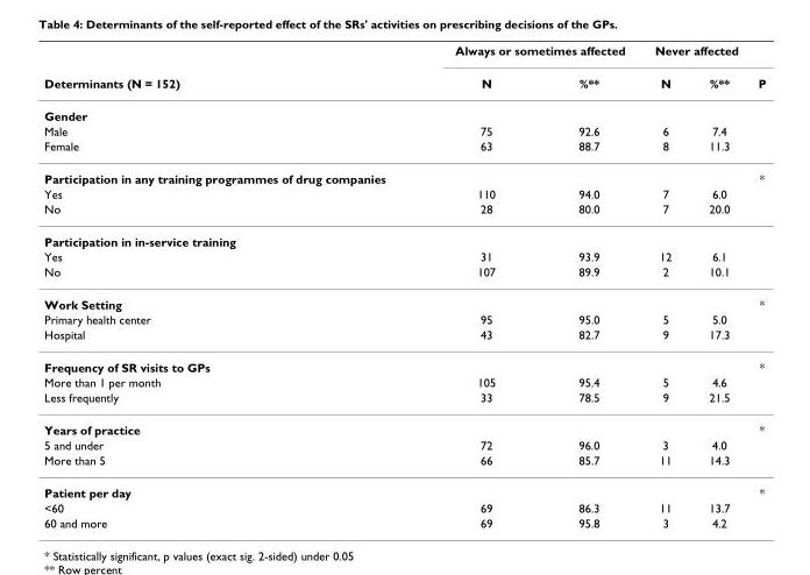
<table><thead><tr><td rowspan="2">Determinants (N = 152)</td><td colspan="2">Always or sometimes affected</td><td colspan="2">Never affected</td><td rowspan="2">P</td></tr><tr><td>N</td><td>%**</td><td>N</td><td>%**</td></tr></thead><tbody><tr><td colspan="6">Gender</td></tr><tr><td>Male</td><td>75</td><td>92.6</td><td>6</td><td>7.4</td><td></td></tr><tr><td>Female</td><td>63</td><td>88.7</td><td>8</td><td>11.3</td><td></td></tr><tr><td>Participation in any training programmes of drug companies</td><td></td><td></td><td></td><td></td><td>*</td></tr><tr><td>Yes</td><td>110</td><td>94.0</td><td>7</td><td>6.0</td><td></td></tr><tr><td>No</td><td>28</td><td>80.0</td><td>7</td><td>20.0</td><td></td></tr><tr><td colspan="6">Participation in in-service training</td></tr><tr><td>Yes</td><td>31</td><td>93.9</td><td>12</td><td>6.1</td><td></td></tr><tr><td>No</td><td>107</td><td>89.9</td><td>2</td><td>10.1</td><td></td></tr><tr><td>Work Setting</td><td></td><td></td><td></td><td></td><td>*</td></tr><tr><td>Primary health center</td><td>95</td><td>95.0</td><td>5</td><td>5.0</td><td></td></tr><tr><td>Hospital</td><td>43</td><td>82.7</td><td>9</td><td>17.3</td><td></td></tr><tr><td>Frequency of SR visits to GPs</td><td></td><td></td><td></td><td></td><td>*</td></tr><tr><td>More than 1 per month</td><td>105</td><td>95.4</td><td>5</td><td>4.6</td><td></td></tr><tr><td>Less frequently</td><td>33</td><td>78.5</td><td>9</td><td>21.5</td><td></td></tr><tr><td>Years of practice</td><td></td><td></td><td></td><td></td><td>*</td></tr><tr><td>5 and under</td><td>72</td><td>96.0</td><td>3</td><td>4.0</td><td></td></tr><tr><td>More than 5</td><td>66</td><td>85.7</td><td>11</td><td>14.3</td><td></td></tr><tr><td>Patient per day</td><td></td><td></td><td></td><td></td><td>*</td></tr><tr><td>&lt;60</td><td>69</td><td>86.3</td><td>11</td><td>13.7</td><td></td></tr><tr><td>60 and more</td><td>69</td><td>95.8</td><td>3</td><td>4.2</td><td></td></tr></tbody></table>